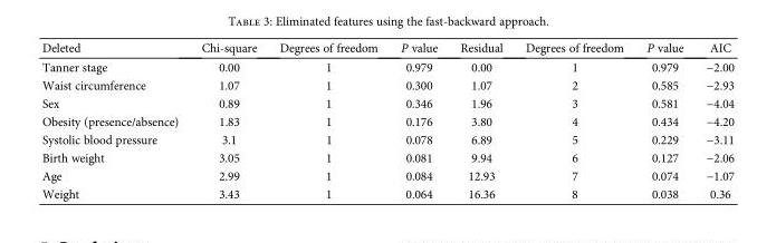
<table><thead><tr><td>Deleted</td><td>Chi-square</td><td>Degrees of freedom</td><td>P value</td><td>Residual</td><td>Degrees of freedom</td><td>P value</td><td>AIC</td></tr></thead><tbody><tr><td>Tanner stage</td><td>0.00</td><td>1</td><td>0.979</td><td>0.00</td><td>1</td><td>0.979</td><td>−2.00</td></tr><tr><td>Waist circumference</td><td>1.07</td><td>1</td><td>0.300</td><td>1.07</td><td>2</td><td>0.585</td><td>−2.93</td></tr><tr><td>Sex</td><td>0.89</td><td>1</td><td>0.346</td><td>1.96</td><td>3</td><td>0.581</td><td>−4.04</td></tr><tr><td>Obesity (presence/absence)</td><td>1.83</td><td>1</td><td>0.176</td><td>3.80</td><td>4</td><td>0.434</td><td>−4.20</td></tr><tr><td>Systolic blood pressure</td><td>3.1</td><td>1</td><td>0.078</td><td>6.89</td><td>5</td><td>0.229</td><td>−3.11</td></tr><tr><td>Birth weight</td><td>3.05</td><td>1</td><td>0.081</td><td>9.94</td><td>6</td><td>0.127</td><td>−2.06</td></tr><tr><td>Age</td><td>2.99</td><td>1</td><td>0.084</td><td>12.93</td><td>7</td><td>0.074</td><td>−1.07</td></tr><tr><td>Weight</td><td>3.43</td><td>1</td><td>0.064</td><td>16.36</td><td>8</td><td>0.038</td><td>0.36</td></tr></tbody></table>